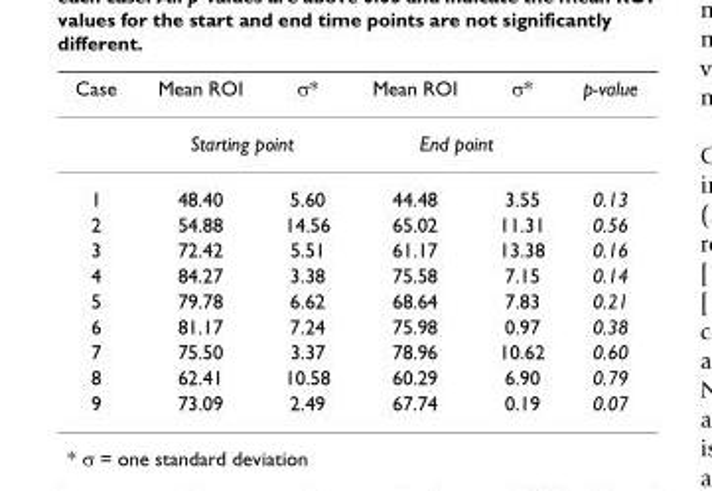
<table><thead><tr><td>Case</td><td>Mean ROI</td><td>σ*</td><td>Mean ROI</td><td>σ*</td><td>p-value</td></tr></thead><tbody><tr><td></td><td colspan="2">Starting point</td><td colspan="2">End point</td><td></td></tr><tr><td>1</td><td>48.40</td><td>5.60</td><td>44.48</td><td>3.55</td><td>0.13</td></tr><tr><td>2</td><td>54.88</td><td>14.56</td><td>65.02</td><td>11.31</td><td>0.56</td></tr><tr><td>3</td><td>72.42</td><td>5.51</td><td>61.17</td><td>13.38</td><td>0.16</td></tr><tr><td>4</td><td>84.27</td><td>3.38</td><td>75.58</td><td>7.15</td><td>0.14</td></tr><tr><td>5</td><td>79.78</td><td>6.62</td><td>68.64</td><td>7.83</td><td>0.21</td></tr><tr><td>6</td><td>81.17</td><td>7.24</td><td>75.98</td><td>0.97</td><td>0.38</td></tr><tr><td>7</td><td>75.50</td><td>3.37</td><td>78.96</td><td>10.62</td><td>0.60</td></tr><tr><td>8</td><td>62.41</td><td>10.58</td><td>60.29</td><td>6.90</td><td>0.79</td></tr><tr><td>9</td><td>73.09</td><td>2.49</td><td>67.74</td><td>0.19</td><td>0.07</td></tr></tbody></table>